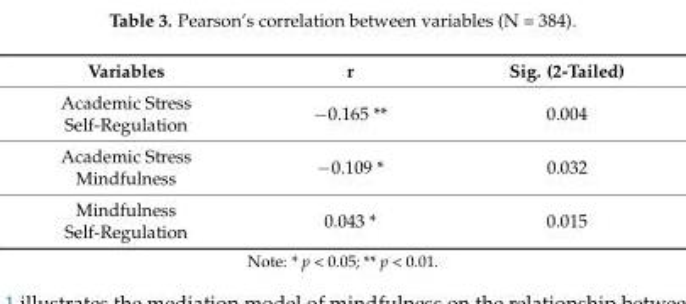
<table><thead><tr><td>Variables</td><td>r</td><td>Sig. (2-Tailed)</td></tr></thead><tbody><tr><td>Academic Stress Self-Regulation</td><td>−0.165 **</td><td>0.004</td></tr><tr><td>Academic Stress Mindfulness</td><td>−0.109 *</td><td>0.032</td></tr><tr><td>Mindfulness Self-Regulation</td><td>0.043 *</td><td>0.015</td></tr></tbody></table>